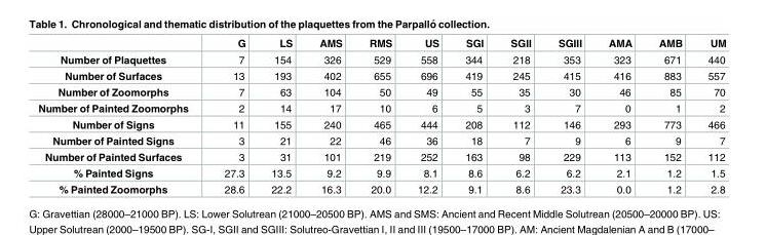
<table><thead><tr><td></td><td>G</td><td>LS</td><td>AMS</td><td>RMS</td><td>US</td><td>SGI</td><td>SGII</td><td>SGIII</td><td>AMA</td><td>AMB</td><td>UM</td></tr></thead><tbody><tr><td>Number of Plaquettes</td><td>7</td><td>154</td><td>326</td><td>529</td><td>558</td><td>344</td><td>218</td><td>353</td><td>323</td><td>671</td><td>440</td></tr><tr><td>Number of Surfaces</td><td>13</td><td>193</td><td>402</td><td>655</td><td>696</td><td>419</td><td>245</td><td>415</td><td>416</td><td>883</td><td>557</td></tr><tr><td>Number of Zoomorphs</td><td>7</td><td>63</td><td>104</td><td>50</td><td>49</td><td>55</td><td>35</td><td>30</td><td>46</td><td>85</td><td>70</td></tr><tr><td>Number of Painted Zoomorphs</td><td>2</td><td>14</td><td>17</td><td>10</td><td>6</td><td>5</td><td>3</td><td>7</td><td>0</td><td>1</td><td>2</td></tr><tr><td>Number of Signs</td><td>11</td><td>155</td><td>240</td><td>465</td><td>444</td><td>208</td><td>112</td><td>146</td><td>293</td><td>773</td><td>466</td></tr><tr><td>Number of Painted Signs</td><td>3</td><td>21</td><td>22</td><td>46</td><td>36</td><td>18</td><td>7</td><td>9</td><td>6</td><td>9</td><td>7</td></tr><tr><td>Number of Painted Surfaces</td><td>3</td><td>31</td><td>101</td><td>219</td><td>252</td><td>163</td><td>98</td><td>229</td><td>113</td><td>152</td><td>112</td></tr><tr><td>% Painted Signs</td><td>27.3</td><td>13.5</td><td>9.2</td><td>9.9</td><td>8.1</td><td>8.6</td><td>6.2</td><td>6.2</td><td>2.1</td><td>1.2</td><td>1.5</td></tr><tr><td>% Painted Zoomorphs</td><td>28.6</td><td>22.2</td><td>16.3</td><td>20.0</td><td>12.2</td><td>9.1</td><td>8.6</td><td>23.3</td><td>0.0</td><td>1.2</td><td>2.8</td></tr></tbody></table>